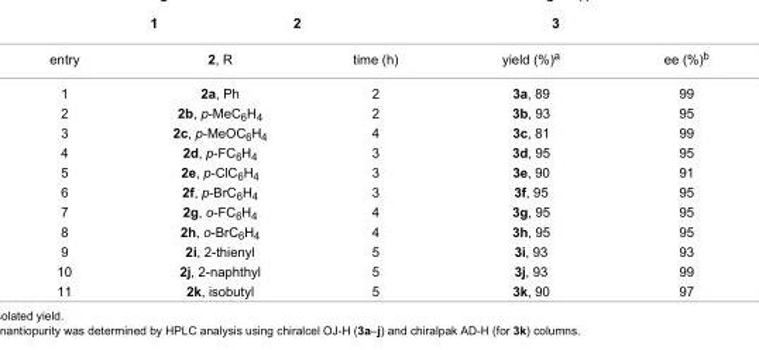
<table><tbody><tr><td>entry</td><td>2, R</td><td>time (h)</td><td>yield (%)<sup>a</sup></td><td>ee (%)<sup>b</sup></td></tr><tr><td>1</td><td>2a, Ph</td><td>2</td><td>3a, 89</td><td>99</td></tr><tr><td>2</td><td>2b, p-MeC<sub>6</sub>H<sub>4</sub></td><td>2</td><td>3b, 93</td><td>95</td></tr><tr><td>3</td><td>2c, p-MeOC<sub>6</sub>H<sub>4</sub></td><td>4</td><td>3c, 81</td><td>99</td></tr><tr><td>4</td><td>2d, p-FC<sub>6</sub>H<sub>4</sub></td><td>3</td><td>3d, 95</td><td>95</td></tr><tr><td>5</td><td>2e, p-ClC<sub>6</sub>H<sub>4</sub></td><td>3</td><td>3e, 90</td><td>91</td></tr><tr><td>6</td><td>2f, p-BrC<sub>6</sub>H<sub>4</sub></td><td>3</td><td>3f, 95</td><td>95</td></tr><tr><td>7</td><td>2g, o-FC<sub>6</sub>H<sub>4</sub></td><td>4</td><td>3g, 95</td><td>95</td></tr><tr><td>8</td><td>2h, o-BrC<sub>6</sub>H<sub>4</sub></td><td>4</td><td>3h, 95</td><td>95</td></tr><tr><td>9</td><td>2i, 2-thienyl</td><td>5</td><td>3i, 93</td><td>93</td></tr><tr><td>10</td><td>2j, 2-naphthyl</td><td>5</td><td>3j, 93</td><td>99</td></tr><tr><td>11</td><td>2k, isobutyl</td><td>5</td><td>3k, 90</td><td>97</td></tr></tbody></table>